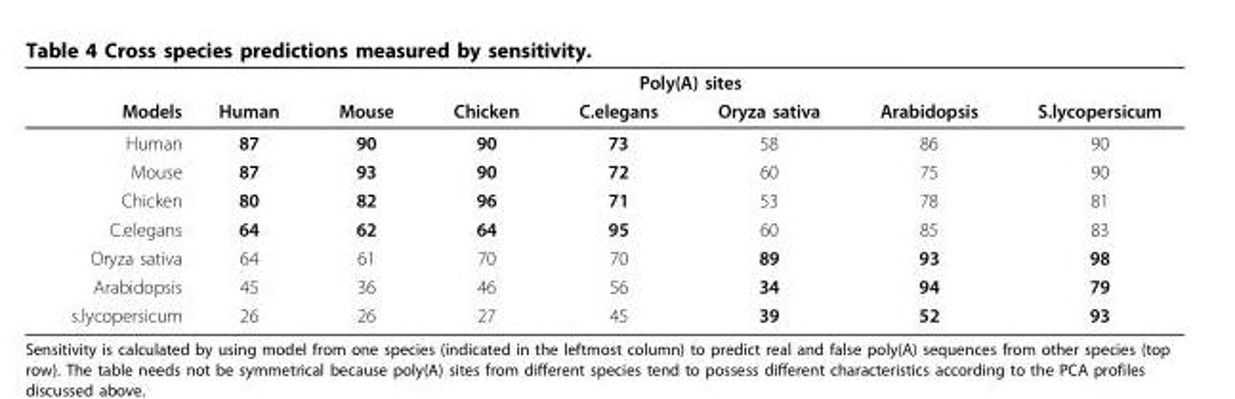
<table><thead><tr><td rowspan="2">Models</td><td colspan="7">Poly(A) sites</td></tr><tr><td>Human</td><td>Mouse</td><td>Chicken</td><td>C.elegans</td><td>Oryza sativa</td><td>Arabidopsis</td><td>S.lycopersicum</td></tr></thead><tbody><tr><td>Human</td><td>87</td><td>90</td><td>90</td><td>73</td><td>58</td><td>86</td><td>90</td></tr><tr><td>Mouse</td><td>87</td><td>93</td><td>90</td><td>72</td><td>60</td><td>75</td><td>90</td></tr><tr><td>Chicken</td><td>80</td><td>82</td><td>96</td><td>71</td><td>53</td><td>78</td><td>81</td></tr><tr><td>C.elegans</td><td>64</td><td>62</td><td>64</td><td>95</td><td>60</td><td>85</td><td>83</td></tr><tr><td>Oryza sativa</td><td>64</td><td>61</td><td>70</td><td>70</td><td>89</td><td>93</td><td>98</td></tr><tr><td>Arabidopsis</td><td>45</td><td>36</td><td>46</td><td>56</td><td>34</td><td>94</td><td>79</td></tr><tr><td>s.lycopersicum</td><td>26</td><td>26</td><td>27</td><td>45</td><td>39</td><td>52</td><td>93</td></tr></tbody></table>